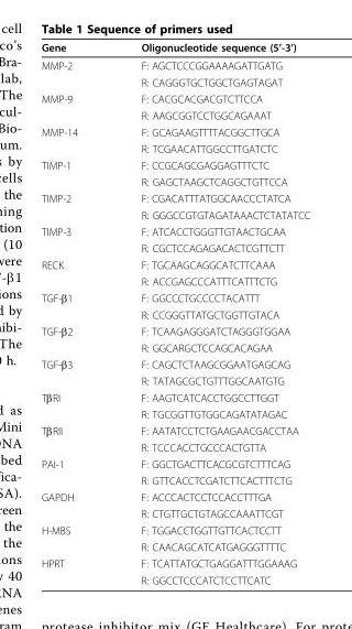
<table><thead><tr><td>Gene</td><td>Oligonucleotide sequence (5’-3’)</td></tr></thead><tbody><tr><td rowspan="2">MMP-2</td><td>F: AGCTCCCGGAAAAGATTGATG</td></tr><tr><td>R: CAGGGTGCTGGCTGAGTAGAT</td></tr><tr><td rowspan="2">MMP-9</td><td>F: CACGCACGACGTCTTCCA</td></tr><tr><td>R: AAGCGGTCCTGGCAGAAAT</td></tr><tr><td rowspan="2">MMP-14</td><td>F: GCAGAAGTTTTACGGCTTGCA</td></tr><tr><td>R: TCGAACATTGGCCTTGATCTC</td></tr><tr><td rowspan="2">TIMP-1</td><td>F: CCGCAGCGAGGAGTTTCTC</td></tr><tr><td>R: GAGCTAAGCTCAGGCTGTTCCA</td></tr><tr><td rowspan="2">TIMP-2</td><td>F: CGACATTTATGGCAACCCTATCA</td></tr><tr><td>R: GGGCCGTGTAGATAAACTCTATATCC</td></tr><tr><td rowspan="2">TIMP-3</td><td>F: ATCACCTGGGTTGTAACTGCAA</td></tr><tr><td>R: CGCTCCAGAGACACTCGTTCTT</td></tr><tr><td rowspan="2">RECK</td><td>F: TGCAAGCAGGCATCTTCAAA</td></tr><tr><td>R: ACCGAGCCCATTTCATTTCTG</td></tr><tr><td rowspan="2">TGF-β1</td><td>F: GGCCCTGCCCCTACATTT</td></tr><tr><td>R: CCGGGTTATGCTGGTTGTACA</td></tr><tr><td rowspan="2">TGF-β2</td><td>F: TCAAGAGGGATCTAGGGTGGAA</td></tr><tr><td>R: GGCARGCTCCAGCACAGAA</td></tr><tr><td rowspan="2">TGF-β3</td><td>F: CAGCTCTAAGCGGAATGAGCAG</td></tr><tr><td>R: TATAGCGCTGTTTGGCAATGTG</td></tr><tr><td rowspan="2">TβRI</td><td>F: AAGTCATCACCTGGCCTTGGT</td></tr><tr><td>R: TGCGGTTGTGGCAGATATAGAC</td></tr><tr><td rowspan="2">TβRII</td><td>F: AATATCCTCTGAAGAACGACCTAA</td></tr><tr><td>R: TCCCACCTGCCCACTGTTA</td></tr><tr><td rowspan="2">PAI-1</td><td>F: GGCTGACTTCACGCGTCTTTCAG</td></tr><tr><td>R: GTTCACCTCGATCTTCACTTTCTG</td></tr><tr><td rowspan="2">GAPDH</td><td>F: ACCCACTCCTCCACCTTTGA</td></tr><tr><td>R: CTGTTGCTGTAGCCAAATTCGT</td></tr><tr><td rowspan="2">H-MBS</td><td>F: TGGACCTGGTTGTTCACTCCTT</td></tr><tr><td>R: CAACAGCATCATGAGGGTTTTC</td></tr><tr><td rowspan="2">HPRT</td><td>F: TCATTATGCTGAGGATTTGGAAAG</td></tr><tr><td>R: GGCCTCCCATCTCCTTCATC</td></tr></tbody></table>